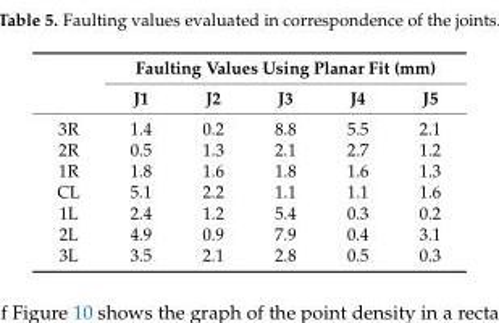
<table><thead><tr><td rowspan="2"></td><td colspan="5">Faulting Values Using Planar Fit (mm)</td></tr><tr><td>J1</td><td>J2</td><td>J3</td><td>J4</td><td>J5</td></tr></thead><tbody><tr><td>3R</td><td>1.4</td><td>0.2</td><td>8.8</td><td>5.5</td><td>2.1</td></tr><tr><td>2R</td><td>0.5</td><td>1.3</td><td>2.1</td><td>2.7</td><td>1.2</td></tr><tr><td>1R</td><td>1.8</td><td>1.6</td><td>1.8</td><td>1.6</td><td>1.3</td></tr><tr><td>CL</td><td>5.1</td><td>2.2</td><td>1.1</td><td>1.1</td><td>1.6</td></tr><tr><td>1L</td><td>2.4</td><td>1.2</td><td>5.4</td><td>0.3</td><td>0.2</td></tr><tr><td>2L</td><td>4.9</td><td>0.9</td><td>7.9</td><td>0.4</td><td>3.1</td></tr><tr><td>3L</td><td>3.5</td><td>2.1</td><td>2.8</td><td>0.5</td><td>0.3</td></tr></tbody></table>